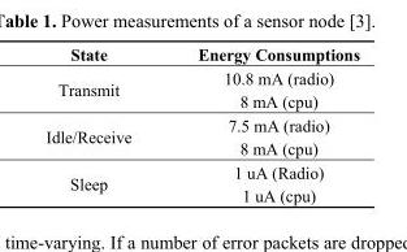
<table><thead><tr><td>State</td><td>Energy Consumptions</td></tr></thead><tbody><tr><td rowspan="2">Transmit</td><td>10.8 mA (radio)</td></tr><tr><td>8 mA (cpu)</td></tr><tr><td rowspan="2">Idle/Receive</td><td>7.5 mA (radio)</td></tr><tr><td>8 mA (cpu)</td></tr><tr><td rowspan="2">Sleep</td><td>1 uA (Radio)</td></tr><tr><td>1 uA (cpu)</td></tr></tbody></table>